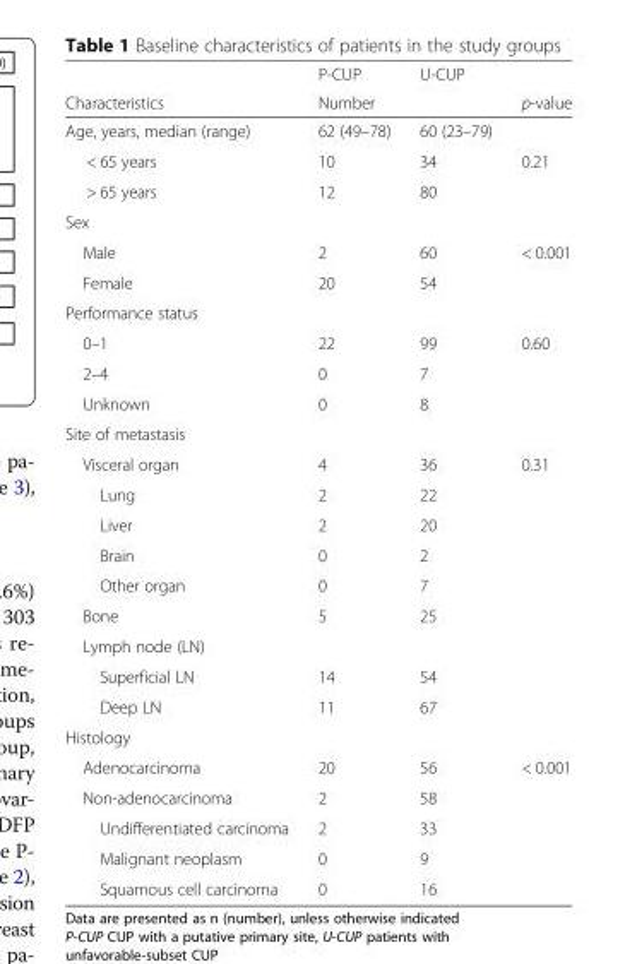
<table><thead><tr><td rowspan="2">Characteristics</td><td rowspan="2">P-CUP Number</td><td rowspan="2">U-CUP</td><td rowspan="2">p-value</td></tr><tr></tr></thead><tbody><tr><td>Age, years, median (range)</td><td>62 (49–78)</td><td>60 (23–79)</td><td></td></tr><tr><td>&lt; 65 years</td><td>10</td><td>34</td><td>0.21</td></tr><tr><td>&gt; 65 years</td><td>12</td><td>80</td><td></td></tr><tr><td colspan="4">Sex</td></tr><tr><td>Male</td><td>2</td><td>60</td><td>&lt; 0.001</td></tr><tr><td>Female</td><td>20</td><td>54</td><td></td></tr><tr><td colspan="4">Performance status</td></tr><tr><td>0–1</td><td>22</td><td>99</td><td>0.60</td></tr><tr><td>2–4</td><td>0</td><td>7</td><td></td></tr><tr><td>Unknown</td><td>0</td><td>8</td><td></td></tr><tr><td colspan="4">Site of metastasis</td></tr><tr><td>Visceral organ</td><td>4</td><td>36</td><td>0.31</td></tr><tr><td>Lung</td><td>2</td><td>22</td><td></td></tr><tr><td>Liver</td><td>2</td><td>20</td><td></td></tr><tr><td>Brain</td><td>0</td><td>2</td><td></td></tr><tr><td>Other organ</td><td>0</td><td>7</td><td></td></tr><tr><td>Bone</td><td>5</td><td>25</td><td></td></tr><tr><td colspan="4">Lymph node (LN)</td></tr><tr><td>Superficial LN</td><td>14</td><td>54</td><td></td></tr><tr><td>Deep LN</td><td>11</td><td>67</td><td></td></tr><tr><td colspan="4">Histology</td></tr><tr><td>Adenocarcinoma</td><td>20</td><td>56</td><td>&lt; 0.001</td></tr><tr><td>Non-adenocarcinoma</td><td>2</td><td>58</td><td></td></tr><tr><td>Undifferentiated carcinoma</td><td>2</td><td>33</td><td></td></tr><tr><td>Malignant neoplasm</td><td>0</td><td>9</td><td></td></tr><tr><td>Squamous cell carcinoma</td><td>0</td><td>16</td><td></td></tr></tbody></table>